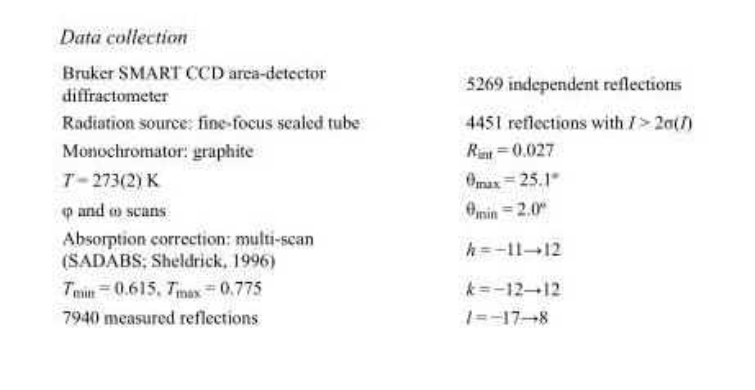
<table><tbody><tr><td>Bruker SMART CCD area-detector diffractometer</td><td>5269 independent reflections</td></tr><tr><td>Radiation source: fine-focus sealed tube</td><td>4451 reflections with I &gt; 2σ(I)</td></tr><tr><td>Monochromator: graphite</td><td>R<sub>int</sub> = 0.027</td></tr><tr><td>T = 273(2) K</td><td>θ<sub>max</sub> = 25.1º</td></tr><tr><td>φ and ω scans</td><td>θ<sub>min</sub> = 2.0º</td></tr><tr><td>Absorption correction: multi-scan (SADABS; Sheldrick, 1996)</td><td>h = −11→12</td></tr><tr><td>T<sub>min</sub> = 0.615, T<sub>max</sub> = 0.775</td><td>k = −12→12</td></tr><tr><td>7940 measured reflections</td><td>l = −17→8</td></tr></tbody></table>